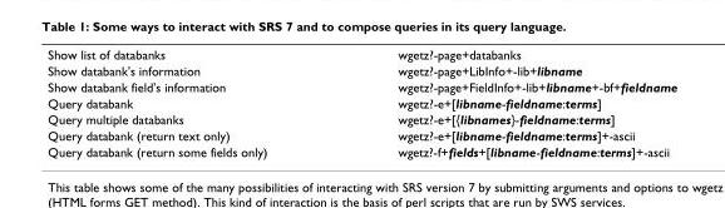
<table><tbody><tr><td>Show list of databanks</td><td>wgetz?-page+databanks</td></tr><tr><td>Show databank&#x27;s information</td><td>wgetz?-page+LibInfo+-lib+libname</td></tr><tr><td>Show databank field&#x27;s information</td><td>wgetz?-page+FieldInfo+-lib+libname+-bf+fieldname</td></tr><tr><td>Query databank</td><td>wgetz?-e+[libname-fieldname:terms]</td></tr><tr><td>Query multiple databanks</td><td>wgetz?-e+[{libnames}-fieldname:terms]</td></tr><tr><td>Query databank (return text only)</td><td>wgetz?-e+[libname-fieldname:terms]+-ascii</td></tr><tr><td>Query databank (return some fields only)</td><td>wgetz?-f+fields+[libname-fieldname:terms]+-ascii</td></tr></tbody></table>